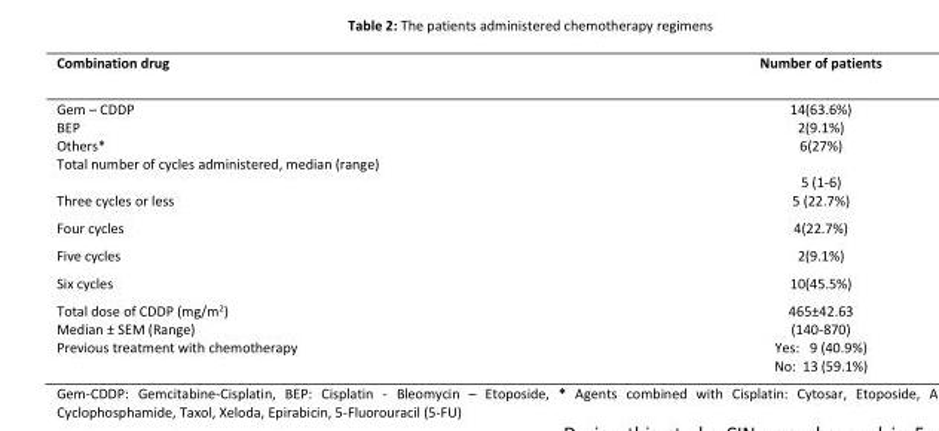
<table><thead><tr><td>Combination drug</td><td>Number of patients</td></tr></thead><tbody><tr><td>Gem – CDDP</td><td>14(63.6%)</td></tr><tr><td>BEP</td><td>2(9.1%)</td></tr><tr><td>Others*</td><td>6(27%)</td></tr><tr><td>Total number of cycles administered, median (range)</td><td>5 (1-6)</td></tr><tr><td>Three cycles or less</td><td>5 (22.7%)</td></tr><tr><td>Four cycles</td><td>4(22.7%)</td></tr><tr><td>Five cycles</td><td>2(9.1%)</td></tr><tr><td>Six cycles</td><td>10(45.5%)</td></tr><tr><td>Total dose of CDDP (mg/m<sup>2</sup>) Median ± SEM (Range)</td><td>465±42.63 (140-870)</td></tr><tr><td>Previous treatment with chemotherapy</td><td>Yes: 9 (40.9%) No: 13 (59.1%)</td></tr></tbody></table>